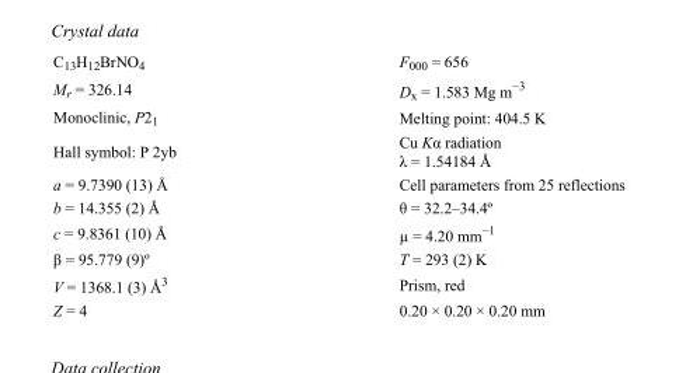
<table><tbody><tr><td>C<sub>13</sub>H<sub>12</sub>BrNO<sub>4</sub></td><td>F<sub>000</sub> = 656</td></tr><tr><td>M<sub>r</sub> = 326.14</td><td>D<sub>x</sub> = 1.583 Mg m<sup>−3</sup></td></tr><tr><td>Monoclinic, P2<sub>1</sub></td><td>Melting point: 404.5 K</td></tr><tr><td>Hall symbol: P 2yb</td><td>Cu Kα radiation λ = 1.54184 Å</td></tr><tr><td>a = 9.7390 (13) Å</td><td>Cell parameters from 25 reflections</td></tr><tr><td>b = 14.355 (2) Å</td><td>θ = 32.2–34.4º</td></tr><tr><td>c = 9.8361 (10) Å</td><td>µ = 4.20 mm<sup>−1</sup></td></tr><tr><td>β = 95.779 (9)º</td><td>T = 293 (2) K</td></tr><tr><td>V = 1368.1 (3) Å<sup>3</sup></td><td>Prism, red</td></tr><tr><td>Z = 4</td><td>0.20 × 0.20 × 0.20 mm</td></tr></tbody></table>